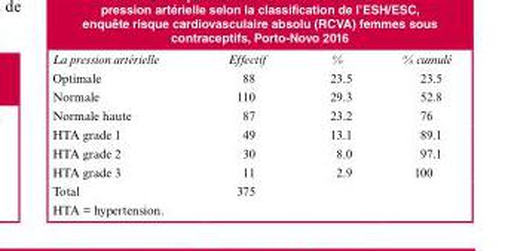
<table><thead><tr><td>La pression artérielle</td><td>Effectif</td><td>%</td><td>% cumulé</td></tr></thead><tbody><tr><td>Optimale</td><td>88</td><td>23.5</td><td>23.5</td></tr><tr><td>Normale</td><td>110</td><td>29.3</td><td>52.8</td></tr><tr><td>Normale haute</td><td>87</td><td>23.2</td><td>76</td></tr><tr><td>HTA grade 1</td><td>49</td><td>13.1</td><td>89.1</td></tr><tr><td>HTA grade 2</td><td>30</td><td>8.0</td><td>97.1</td></tr><tr><td>HTA grade 3</td><td>11</td><td>2.9</td><td>100</td></tr><tr><td>Total</td><td>375</td><td></td><td></td></tr></tbody></table>